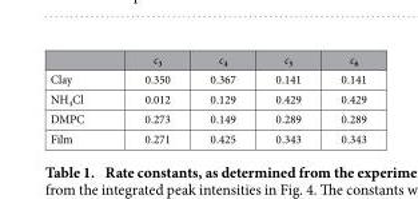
<table><thead><tr><td></td><td>c<sub>3</sub></td><td>c<sub>4</sub></td><td>c<sub>5</sub></td><td>c<sub>6</sub></td></tr></thead><tbody><tr><td>Clay</td><td>0.350</td><td>0.367</td><td>0.141</td><td>0.141</td></tr><tr><td>NH<sub>4</sub>Cl</td><td>0.012</td><td>0.129</td><td>0.429</td><td>0.429</td></tr><tr><td>DMPC</td><td>0.273</td><td>0.149</td><td>0.289</td><td>0.289</td></tr><tr><td>Film</td><td>0.271</td><td>0.425</td><td>0.343</td><td>0.343</td></tr></tbody></table>